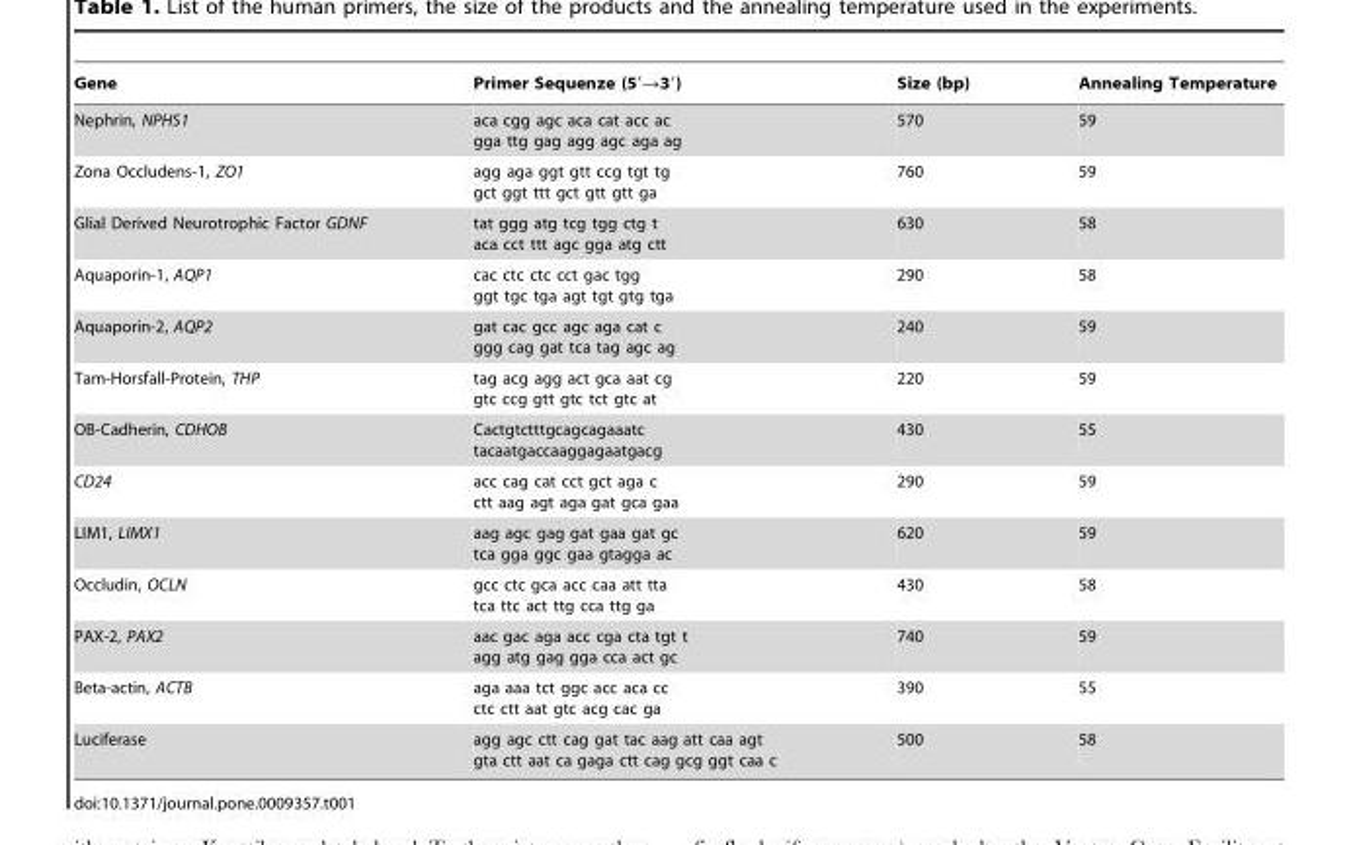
<table><thead><tr><td>Gene</td><td>Primer Sequenze (5′→3′)</td><td>Size (bp)</td><td>Annealing Temperature</td></tr></thead><tbody><tr><td>Nephrin, NPHS1</td><td>aca cgg agc aca cat acc ac gga ttg gag agg agc aga ag</td><td>570</td><td>59</td></tr><tr><td>Zona Occludens-1, ZO1</td><td>agg aga ggt gtt ccg tgt tg gct ggt ttt gct gtt gtt ga</td><td>760</td><td>59</td></tr><tr><td>Glial Derived Neurotrophic Factor GDNF</td><td>tat ggg atg tcg tgg ctg t aca cct ttt agc gga atg ctt</td><td>630</td><td>58</td></tr><tr><td>Aquaporin-1, AQP1</td><td>cac ctc ctc cct gac tgg ggt tgc tga agt tgt gtg tga</td><td>290</td><td>58</td></tr><tr><td>Aquaporin-2, AQP2</td><td>gat cac gcc agc aga cat c ggg cag gat tca tag agc ag</td><td>240</td><td>59</td></tr><tr><td>Tam-Horsfall-Protein, THP</td><td>tag acg agg act gca aat cg gtc ccg gtt gtc tct gtc at</td><td>220</td><td>59</td></tr><tr><td>OB-Cadherin, CDHOB</td><td>Cactgtctttgcagcagaaatc tacaatgaccaaggagaatgacg</td><td>430</td><td>55</td></tr><tr><td>CD24</td><td>acc cag cat cct gct aga c ctt aag agt aga gat gca gaa</td><td>290</td><td>59</td></tr><tr><td>LIM1, LIMX1</td><td>aag agc gag gat gaa gat gc tca gga ggc gaa gtagga ac</td><td>620</td><td>59</td></tr><tr><td>Occludin, OCLN</td><td>gcc ctc gca acc caa att tta tca ttc act ttg cca ttg ga</td><td>430</td><td>58</td></tr><tr><td>PAX-2, PAX2</td><td>aac gac aga acc cga cta tgt t agg atg gag gga cca act gc</td><td>740</td><td>59</td></tr><tr><td>Beta-actin, ACTB</td><td>aga aaa tct ggc acc aca cc ctc ctt aat gtc acg cac ga</td><td>390</td><td>55</td></tr><tr><td>Luciferase</td><td>agg agc ctt cag gat tac aag att caa agt gta ctt aat ca gaga ctt cag gcg ggt caa c</td><td>500</td><td>58</td></tr></tbody></table>